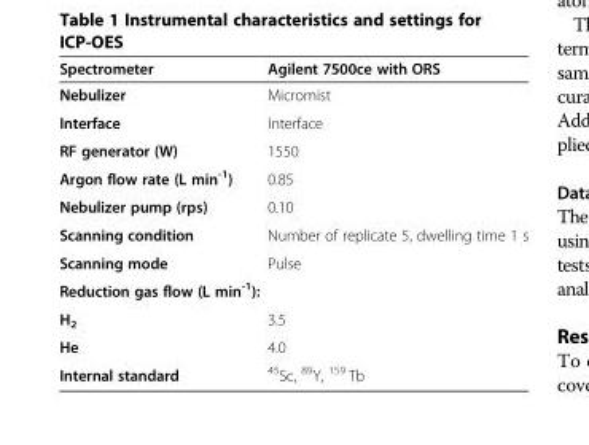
<table><thead><tr><td>Spectrometer</td><td>Agilent 7500ce with ORS</td></tr></thead><tbody><tr><td>Nebulizer</td><td>Micromist</td></tr><tr><td>Interface</td><td>Interface</td></tr><tr><td>RF generator (W)</td><td>1550</td></tr><tr><td>Argon flow rate (L min<sup>-1</sup>)</td><td>0.85</td></tr><tr><td>Nebulizer pump (rps)</td><td>0.10</td></tr><tr><td>Scanning condition</td><td>Number of replicate 5, dwelling time 1 s</td></tr><tr><td>Scanning mode</td><td>Pulse</td></tr><tr><td colspan="2">Reduction gas flow (L min<sup>-1</sup>):</td></tr><tr><td>H<sub>2</sub></td><td>3.5</td></tr><tr><td>He</td><td>4.0</td></tr><tr><td>Internal standard</td><td><sup>45</sup>Sc, <sup>89</sup>Y, <sup>159</sup> Tb</td></tr></tbody></table>